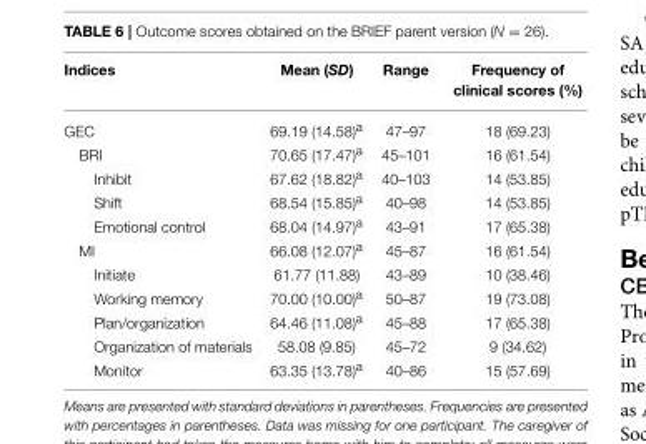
<table><thead><tr><td>Indices</td><td>Mean (SD)</td><td>Range</td><td>Frequency of clinical scores (%)</td></tr></thead><tbody><tr><td>GEC</td><td>69.19 (14.58)<sup>a</sup></td><td>47–97</td><td>18 (69.23)</td></tr><tr><td>BRI</td><td>70.65 (17.47)<sup>a</sup></td><td>45–101</td><td>16 (61.54)</td></tr><tr><td>Inhibit</td><td>67.62 (18.82)<sup>a</sup></td><td>40–103</td><td>14 (53.85)</td></tr><tr><td>Shift</td><td>68.54 (15.85)<sup>a</sup></td><td>40–98</td><td>14 (53.85)</td></tr><tr><td>Emotional control</td><td>68.04 (14.97)<sup>a</sup></td><td>43–91</td><td>17 (65.38)</td></tr><tr><td>MI</td><td>66.08 (12.07)<sup>a</sup></td><td>45–87</td><td>16 (61.54)</td></tr><tr><td>Initiate</td><td>61.77 (11.88)</td><td>43–89</td><td>10 (38.46)</td></tr><tr><td>Working memory</td><td>70.00 (10.00)<sup>a</sup></td><td>50–87</td><td>19 (73.08)</td></tr><tr><td>Plan/organization</td><td>64.46 (11.08)<sup>a</sup></td><td>45–88</td><td>17 (65.38)</td></tr><tr><td>Organization of materials</td><td>58.08 (9.85)</td><td>45–72</td><td>9 (34.62)</td></tr><tr><td>Monitor</td><td>63.35 (13.78)<sup>a</sup></td><td>40–86</td><td>15 (57.69)</td></tr></tbody></table>